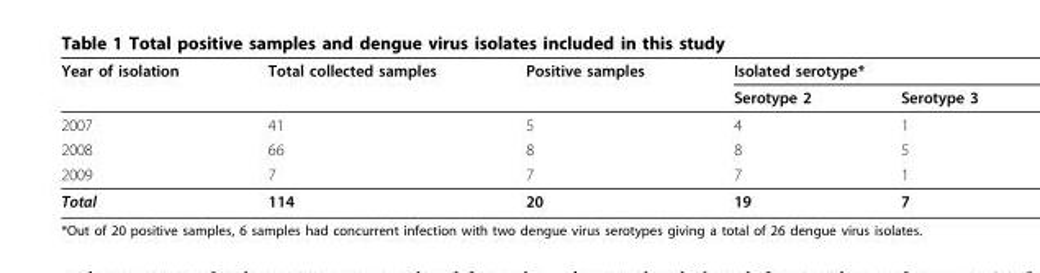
<table><thead><tr><td rowspan="2">Year of isolation</td><td rowspan="2">Total collected samples</td><td rowspan="2">Positive samples</td><td colspan="2">Isolated serotype*</td></tr><tr><td>Serotype 2</td><td>Serotype 3</td></tr></thead><tbody><tr><td>2007</td><td>41</td><td>5</td><td>4</td><td>1</td></tr><tr><td>2008</td><td>66</td><td>8</td><td>8</td><td>5</td></tr><tr><td>2009</td><td>7</td><td>7</td><td>7</td><td>1</td></tr><tr><td>Total</td><td>114</td><td>20</td><td>19</td><td>7</td></tr></tbody></table>